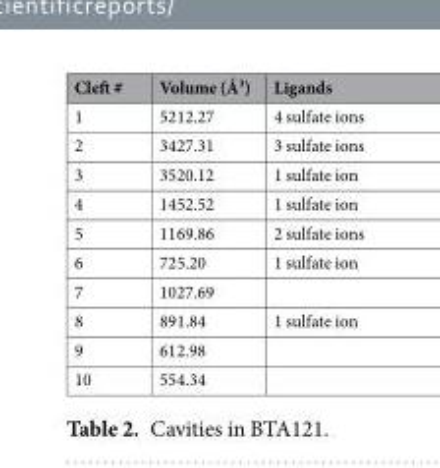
<table><thead><tr><td>Cleft #</td><td>Volume (Å<sup>3</sup>)</td><td>Ligands</td></tr></thead><tbody><tr><td>1</td><td>5212.27</td><td>4 sulfate ions</td></tr><tr><td>2</td><td>3427.31</td><td>3 sulfate ions</td></tr><tr><td>3</td><td>3520.12</td><td>1 sulfate ion</td></tr><tr><td>4</td><td>1452.52</td><td>1 sulfate ion</td></tr><tr><td>5</td><td>1169.86</td><td>2 sulfate ions</td></tr><tr><td>6</td><td>725.20</td><td>1 sulfate ion</td></tr><tr><td>7</td><td>1027.69</td><td></td></tr><tr><td>8</td><td>891.84</td><td>1 sulfate ion</td></tr><tr><td>9</td><td>612.98</td><td></td></tr><tr><td>10</td><td>554.34</td><td></td></tr></tbody></table>